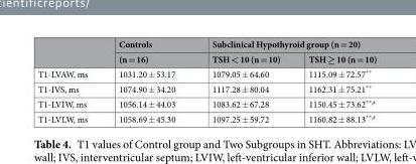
<table><thead><tr><td rowspan="2"></td><td rowspan="2">Controls (n = 16)</td><td colspan="2">Subclinical Hypothyroid group (n = 20)</td></tr><tr><td>TSH &lt; 10 (n = 10)</td><td>TSH ≥ 10 (n = 10)</td></tr></thead><tbody><tr><td>T1-LVAW, ms</td><td>1031.20 ± 53.17</td><td>1079.05 ± 64.60</td><td>1115.09 ± 72.57**</td></tr><tr><td>T1-IVS, ms</td><td>1074.90 ± 34.20</td><td>1117.28 ± 80.04</td><td>1162.31 ± 75.21**</td></tr><tr><td>T1-LVIW, ms</td><td>1056.14 ± 44.03</td><td>1083.62 ± 67.28</td><td>1150.45 ± 73.62<sup>**,#</sup></td></tr><tr><td>T1-LVLW, ms</td><td>1058.69 ± 45.30</td><td>1097.25 ± 59.72</td><td>1160.82 ± 88.13<sup>**,#</sup></td></tr></tbody></table>